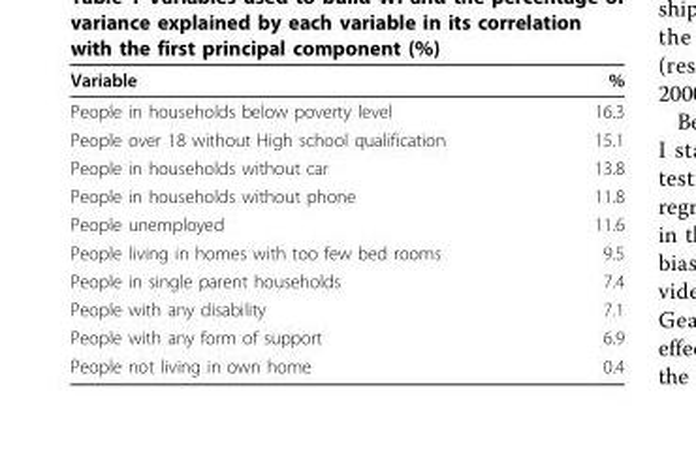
<table><thead><tr><td>Variable</td><td>%</td></tr></thead><tbody><tr><td>People in households below poverty level</td><td>16.3</td></tr><tr><td>People over 18 without High school qualification</td><td>15.1</td></tr><tr><td>People in households without car</td><td>13.8</td></tr><tr><td>People in households without phone</td><td>11.8</td></tr><tr><td>People unemployed</td><td>11.6</td></tr><tr><td>People living in homes with too few bed rooms</td><td>9.5</td></tr><tr><td>People in single parent households</td><td>7.4</td></tr><tr><td>People with any disability</td><td>7.1</td></tr><tr><td>People with any form of support</td><td>6.9</td></tr><tr><td>People not living in own home</td><td>0.4</td></tr></tbody></table>